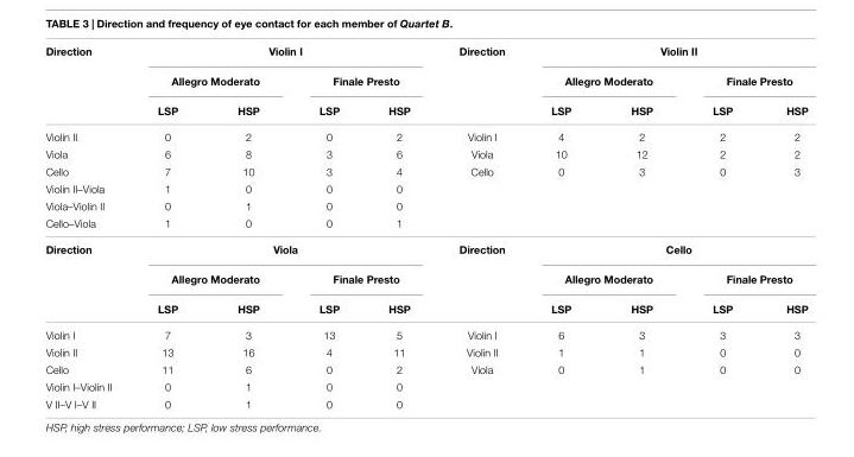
<table><thead><tr><td rowspan="3">Direction</td><td colspan="4">Violin I</td><td rowspan="3">Direction</td><td colspan="4">Violin II</td></tr><tr><td colspan="2">Allegro Moderato</td><td colspan="2">Finale Presto</td><td colspan="2">Allegro Moderato</td><td colspan="2">Finale Presto</td></tr><tr><td>LSP</td><td>HSP</td><td>LSP</td><td>HSP</td><td>LSP</td><td>HSP</td><td>LSP</td><td>HSP</td></tr></thead><tbody><tr><td>Violin II</td><td>0</td><td>2</td><td>0</td><td>2</td><td>Violin I</td><td>4</td><td>2</td><td>2</td><td>2</td></tr><tr><td>Viola</td><td>6</td><td>8</td><td>3</td><td>6</td><td>Viola</td><td>10</td><td>12</td><td>2</td><td>2</td></tr><tr><td>Cello</td><td>7</td><td>10</td><td>3</td><td>4</td><td>Cello</td><td>0</td><td>3</td><td>0</td><td>3</td></tr><tr><td>Violin II–Viola</td><td>1</td><td>0</td><td>0</td><td>0</td><td></td><td></td><td></td><td></td><td></td></tr><tr><td>Viola–Violin II</td><td>0</td><td>1</td><td>0</td><td>0</td><td></td><td></td><td></td><td></td><td></td></tr><tr><td>Cello–Viola</td><td>1</td><td>0</td><td>0</td><td>1</td><td></td><td></td><td></td><td></td><td></td></tr><tr><td rowspan="3">Direction</td><td colspan="4">Viola</td><td>Direction</td><td colspan="4">Cello</td></tr><tr><td colspan="2">Allegro Moderato</td><td colspan="2">Finale Presto</td><td></td><td colspan="2">Allegro Moderato</td><td colspan="2">Finale Presto</td></tr><tr><td>LSP</td><td>HSP</td><td>LSP</td><td>HSP</td><td></td><td>LSP</td><td>HSP</td><td>LSP</td><td>HSP</td></tr><tr><td>Violin I</td><td>7</td><td>3</td><td>13</td><td>5</td><td>Violin I</td><td>6</td><td>3</td><td>3</td><td>3</td></tr><tr><td>Violin II</td><td>13</td><td>16</td><td>4</td><td>11</td><td>Violin II</td><td>1</td><td>1</td><td>0</td><td>0</td></tr><tr><td>Cello</td><td>11</td><td>6</td><td>0</td><td>2</td><td>Viola</td><td>0</td><td>1</td><td>0</td><td>0</td></tr><tr><td>Violin I–Violin II</td><td>0</td><td>1</td><td>0</td><td>0</td><td></td><td></td><td></td><td></td><td></td></tr><tr><td>V II–V I–V II</td><td>0</td><td>1</td><td>0</td><td>0</td><td></td><td></td><td></td><td></td><td></td></tr></tbody></table>